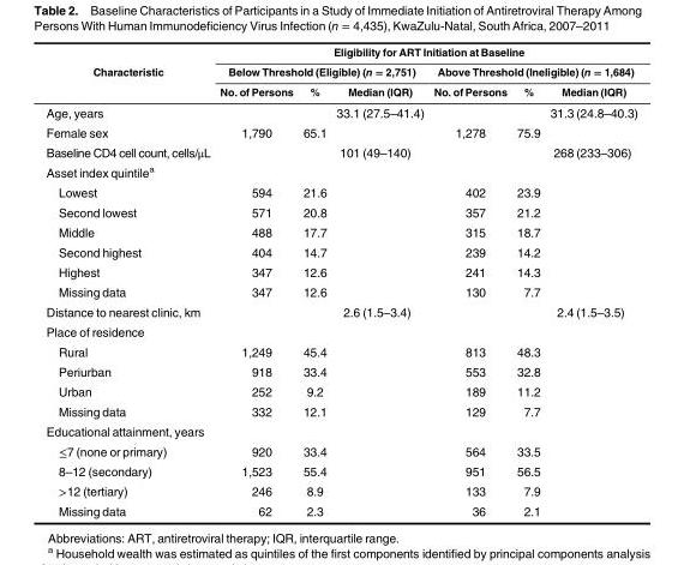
<table><thead><tr><td rowspan="3">Characteristic</td><td colspan="6">Eligibility for ART Initiation at Baseline</td></tr><tr><td colspan="3">Below Threshold (Eligible) (n = 2,751)</td><td colspan="3">Above Threshold (Ineligible) (n = 1,684)</td></tr><tr><td>No. of Persons</td><td>%</td><td>Median (IQR)</td><td>No. of Persons</td><td>%</td><td>Median (IQR)</td></tr></thead><tbody><tr><td>Age, years</td><td></td><td></td><td>33.1 (27.5–41.4)</td><td></td><td></td><td>31.3 (24.8–40.3)</td></tr><tr><td>Female sex</td><td>1,790</td><td>65.1</td><td></td><td>1,278</td><td>75.9</td><td></td></tr><tr><td>Baseline CD4 cell count, cells/μL</td><td></td><td></td><td>101 (49–140)</td><td></td><td></td><td>268 (233–306)</td></tr><tr><td colspan="7">Asset index quintile<sup>a</sup></td></tr><tr><td>Lowest</td><td>594</td><td>21.6</td><td></td><td>402</td><td>23.9</td><td></td></tr><tr><td>Second lowest</td><td>571</td><td>20.8</td><td></td><td>357</td><td>21.2</td><td></td></tr><tr><td>Middle</td><td>488</td><td>17.7</td><td></td><td>315</td><td>18.7</td><td></td></tr><tr><td>Second highest</td><td>404</td><td>14.7</td><td></td><td>239</td><td>14.2</td><td></td></tr><tr><td>Highest</td><td>347</td><td>12.6</td><td></td><td>241</td><td>14.3</td><td></td></tr><tr><td>Missing data</td><td>347</td><td>12.6</td><td></td><td>130</td><td>7.7</td><td></td></tr><tr><td>Distance to nearest clinic, km</td><td></td><td></td><td>2.6 (1.5–3.4)</td><td></td><td></td><td>2.4 (1.5–3.5)</td></tr><tr><td colspan="7">Place of residence</td></tr><tr><td>Rural</td><td>1,249</td><td>45.4</td><td></td><td>813</td><td>48.3</td><td></td></tr><tr><td>Periurban</td><td>918</td><td>33.4</td><td></td><td>553</td><td>32.8</td><td></td></tr><tr><td>Urban</td><td>252</td><td>9.2</td><td></td><td>189</td><td>11.2</td><td></td></tr><tr><td>Missing data</td><td>332</td><td>12.1</td><td></td><td>129</td><td>7.7</td><td></td></tr><tr><td colspan="7">Educational attainment, years</td></tr><tr><td>≤7 (none or primary)</td><td>920</td><td>33.4</td><td></td><td>564</td><td>33.5</td><td></td></tr><tr><td>8–12 (secondary)</td><td>1,523</td><td>55.4</td><td></td><td>951</td><td>56.5</td><td></td></tr><tr><td>&gt;12 (tertiary)</td><td>246</td><td>8.9</td><td></td><td>133</td><td>7.9</td><td></td></tr><tr><td>Missing data</td><td>62</td><td>2.3</td><td></td><td>36</td><td>2.1</td><td></td></tr></tbody></table>